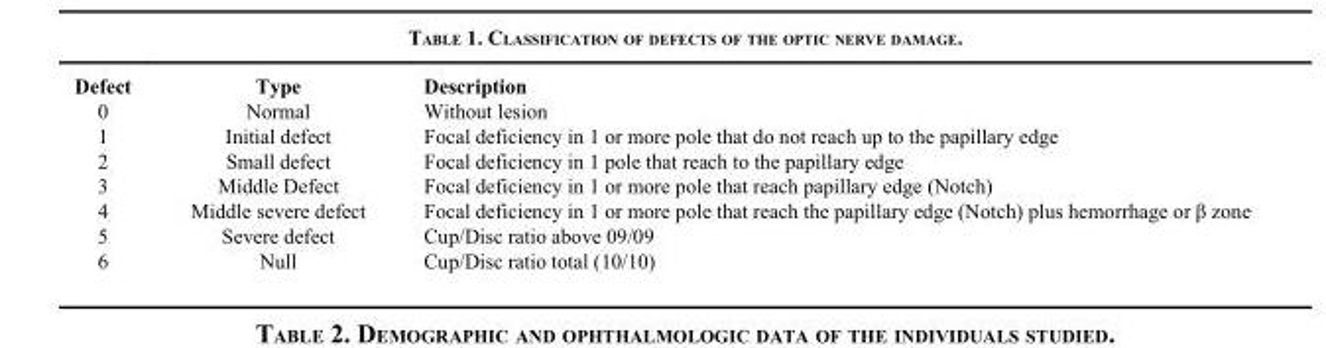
<table><thead><tr><td>Defect</td><td>Type</td><td>Description</td></tr></thead><tbody><tr><td>0</td><td>Normal</td><td>Without lesion</td></tr><tr><td>1</td><td>Initial defect</td><td>Focal deficiency in 1 or more pole that do not reach up to the papillary edge</td></tr><tr><td>2</td><td>Small defect</td><td>Focal deficiency in 1 pole that reach to the papillary edge</td></tr><tr><td>3</td><td>Middle Defect</td><td>Focal deficiency in 1 or more pole that reach papillary edge (Notch)</td></tr><tr><td>4</td><td>Middle severe defect</td><td>Focal deficiency in 1 or more pole that reach the papillary edge (Notch) plus hemorrhage or β zone</td></tr><tr><td>5</td><td>Severe defect</td><td>Cup/Disc ratio above 09/09</td></tr><tr><td>6</td><td>Null</td><td>Cup/Disc ratio total (10/10)</td></tr></tbody></table>